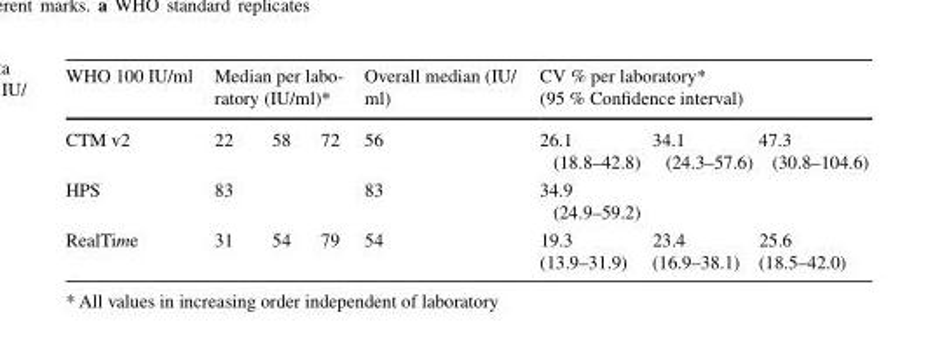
<table><thead><tr><td rowspan="2">WHO 100 IU/ml CTM v2</td><td colspan="3">Median per labo- ratory (IU/ml)*</td><td rowspan="2">Overall median (IU/ ml) 56</td><td colspan="3">CV % per laboratory* (95 % Confidence interval)</td></tr><tr><td>22</td><td>58</td><td>72</td><td>26.1 (18.8–42.8)</td><td>34.1 (24.3–57.6)</td><td>47.3 (30.8–104.6)</td></tr></thead><tbody><tr><td>HPS</td><td colspan="3">83</td><td>83</td><td colspan="3">34.9 (24.9–59.2)</td></tr><tr><td>RealTime</td><td>31</td><td>54</td><td>79</td><td>54</td><td>19.3 (13.9–31.9)</td><td>23.4 (16.9–38.1)</td><td>25.6 (18.5–42.0)</td></tr></tbody></table>